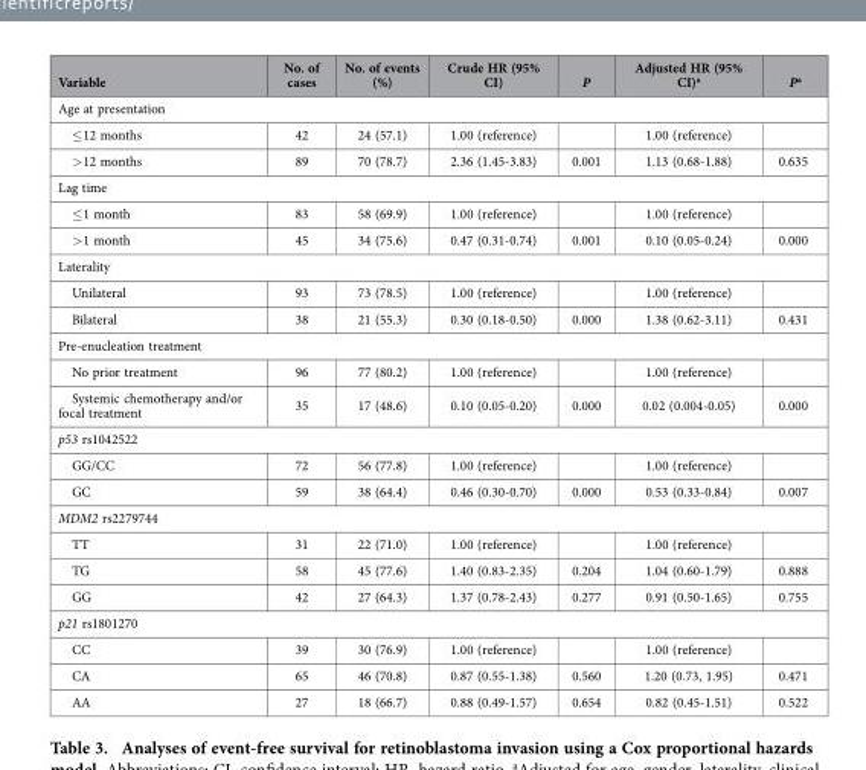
<table><thead><tr><td>Variable</td><td>No. of cases</td><td>No. of events (%)</td><td>Crude HR (95% CI)</td><td>P</td><td>Adjusted HR (95% CI)<sup>a</sup></td><td>P<sup>a</sup></td></tr></thead><tbody><tr><td colspan="7">Age at presentation</td></tr><tr><td>≤ 12 months</td><td>42</td><td>24 (57.1)</td><td>1.00 (reference)</td><td></td><td>1.00 (reference)</td><td></td></tr><tr><td>&gt; 12 months</td><td>89</td><td>70 (78.7)</td><td>2.36 (1.45-3.83)</td><td>0.001</td><td>1.13 (0.68-1.88)</td><td>0.635</td></tr><tr><td colspan="7">Lag time</td></tr><tr><td>≤ 1 month</td><td>83</td><td>58 (69.9)</td><td>1.00 (reference)</td><td></td><td>1.00 (reference)</td><td></td></tr><tr><td>&gt; 1 month</td><td>45</td><td>34 (75.6)</td><td>0.47 (0.31-0.74)</td><td>0.001</td><td>0.10 (0.05-0.24)</td><td>0.000</td></tr><tr><td colspan="7">Laterality</td></tr><tr><td>Unilateral</td><td>93</td><td>73 (78.5)</td><td>1.00 (reference)</td><td></td><td>1.00 (reference)</td><td></td></tr><tr><td>Bilateral</td><td>38</td><td>21 (55.3)</td><td>0.30 (0.18-0.50)</td><td>0.000</td><td>1.38 (0.62-3.11)</td><td>0.431</td></tr><tr><td colspan="7">Pre-enucleation treatment</td></tr><tr><td>No prior treatment</td><td>96</td><td>77 (80.2)</td><td>1.00 (reference)</td><td></td><td>1.00 (reference)</td><td></td></tr><tr><td>Systemic chemotherapy and/or focal treatment</td><td>35</td><td>17 (48.6)</td><td>0.10 (0.05-0.20)</td><td>0.000</td><td>0.02 (0.004-0.05)</td><td>0.000</td></tr><tr><td colspan="7">p53 rs1042522</td></tr><tr><td>GG/CC</td><td>72</td><td>56 (77.8)</td><td>1.00 (reference)</td><td></td><td>1.00 (reference)</td><td></td></tr><tr><td>GC</td><td>59</td><td>38 (64.4)</td><td>0.46 (0.30-0.70)</td><td>0.000</td><td>0.53 (0.33-0.84)</td><td>0.007</td></tr><tr><td colspan="7">MDM2 rs2279744</td></tr><tr><td>TT</td><td>31</td><td>22 (71.0)</td><td>1.00 (reference)</td><td></td><td>1.00 (reference)</td><td></td></tr><tr><td>TG</td><td>58</td><td>45 (77.6)</td><td>1.40 (0.83-2.35)</td><td>0.204</td><td>1.04 (0.60-1.79)</td><td>0.888</td></tr><tr><td>GG</td><td>42</td><td>27 (64.3)</td><td>1.37 (0.78-2.43)</td><td>0.277</td><td>0.91 (0.50-1.65)</td><td>0.755</td></tr><tr><td colspan="7">p21 rs1801270</td></tr><tr><td>CC</td><td>39</td><td>30 (76.9)</td><td>1.00 (reference)</td><td></td><td>1.00 (reference)</td><td></td></tr><tr><td>CA</td><td>65</td><td>46 (70.8)</td><td>0.87 (0.55-1.38)</td><td>0.560</td><td>1.20 (0.73, 1.95)</td><td>0.471</td></tr><tr><td>AA</td><td>27</td><td>18 (66.7)</td><td>0.88 (0.49-1.57)</td><td>0.654</td><td>0.82 (0.45-1.51)</td><td>0.522</td></tr></tbody></table>